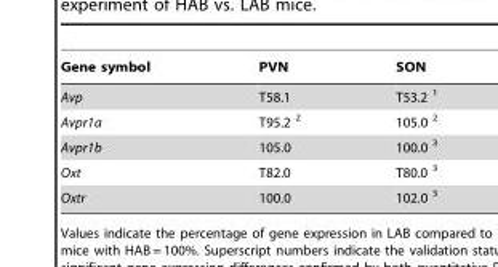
<table><thead><tr><td>Gene symbol</td><td>PVN</td><td>SON</td></tr></thead><tbody><tr><td>Avp</td><td>T58.1</td><td>T53.2 <sup>1</sup></td></tr><tr><td>Avpr1a</td><td>T95.2 <sup>2</sup></td><td>105.0 <sup>2</sup></td></tr><tr><td>Avpr1b</td><td>105.0</td><td>100.0 <sup>3</sup></td></tr><tr><td>Oxt</td><td>T82.0</td><td>T80.0 <sup>3</sup></td></tr><tr><td>Oxtr</td><td>100.0</td><td>102.0 <sup>3</sup></td></tr></tbody></table>